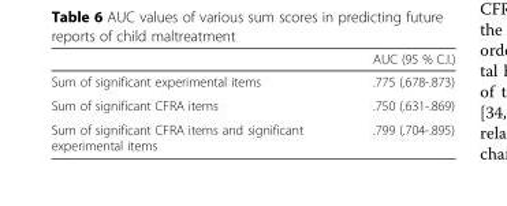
<table><thead><tr><td></td><td>AUC (95 % C.I.)</td></tr></thead><tbody><tr><td>Sum of significant experimental items</td><td>.775 (.678-.873)</td></tr><tr><td>Sum of significant CFRA items</td><td>.750 (.631-.869)</td></tr><tr><td>Sum of significant CFRA items and significant experimental items</td><td>.799 (.704-.895)</td></tr></tbody></table>